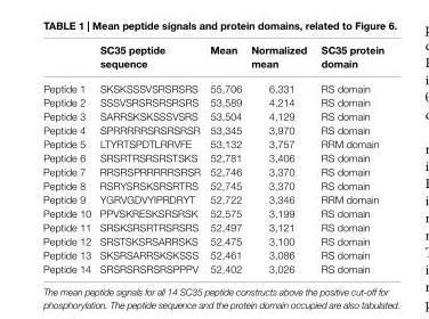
<table><thead><tr><td></td><td>sc35 peptide sequence</td><td>Mean</td><td>normalized mean</td><td>sc35 protein domain</td></tr></thead><tbody><tr><td>Peptide 1</td><td>SKSKSSSVSRSRSRS</td><td>55,706</td><td>6,331</td><td>RS domain</td></tr><tr><td>Peptide 2</td><td>SSSVSRSRSRSRSRS</td><td>53,589</td><td>4,214</td><td>RS domain</td></tr><tr><td>Peptide 3</td><td>SARRSKSKSSSVSRS</td><td>53,504</td><td>4,129</td><td>RS domain</td></tr><tr><td>Peptide 4</td><td>SPRRRRRSRSRSRSR</td><td>53,345</td><td>3,970</td><td>RS domain</td></tr><tr><td>Peptide 5</td><td>LTYRTSPDTLRRVFE</td><td>53,132</td><td>3,757</td><td>RRM domain</td></tr><tr><td>Peptide 6</td><td>SRSRTRSRSRSTSKS</td><td>52,781</td><td>3,406</td><td>RS domain</td></tr><tr><td>Peptide 7</td><td>RRSRSPRRRRRSRSR</td><td>52,746</td><td>3,370</td><td>RS domain</td></tr><tr><td>Peptide 8</td><td>RSRYSRSKSRSRTRS</td><td>52,745</td><td>3,370</td><td>RS domain</td></tr><tr><td>Peptide 9</td><td>YGRVGDVYIPRDRYT</td><td>52,722</td><td>3,346</td><td>RRM domain</td></tr><tr><td>Peptide 10</td><td>PPVSKRESKSRSRSK</td><td>52,575</td><td>3,199</td><td>RS domain</td></tr><tr><td>Peptide 11</td><td>SRSKSRSRTRSRSRS</td><td>52,497</td><td>3,121</td><td>RS domain</td></tr><tr><td>Peptide 12</td><td>SRSTSKSRSARRSKS</td><td>52,475</td><td>3,100</td><td>RS domain</td></tr><tr><td>Peptide 13</td><td>SKSRSARRSKSKSSS</td><td>52,461</td><td>3,086</td><td>RS domain</td></tr><tr><td>Peptide 14</td><td>SRSRSRSRSRSPPPV</td><td>52,402</td><td>3,026</td><td>RS domain</td></tr></tbody></table>